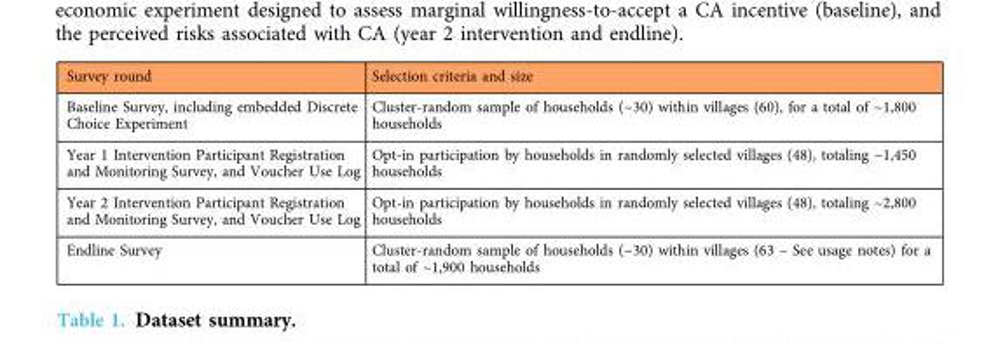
<table><thead><tr><td>Survey round</td><td>Selection criteria and size</td></tr></thead><tbody><tr><td>Baseline Survey, including embedded Discrete Choice Experiment</td><td>Cluster-random sample of households (~30) within villages (60), for a total of ~1,800 households</td></tr><tr><td>Year 1 Intervention Participant Registration and Monitoring Survey, and Voucher Use Log</td><td>Opt-in participation by households in randomly selected villages (48), totaling ~1,450 households</td></tr><tr><td>Year 2 Intervention Participant Registration and Monitoring Survey, and Voucher Use Log</td><td>Opt-in participation by households in randomly selected villages (48), totaling ~2,800 households</td></tr><tr><td>Endline Survey</td><td>Cluster-random sample of households (~30) within villages (63 – See usage notes) for a total of ~1,900 households</td></tr></tbody></table>